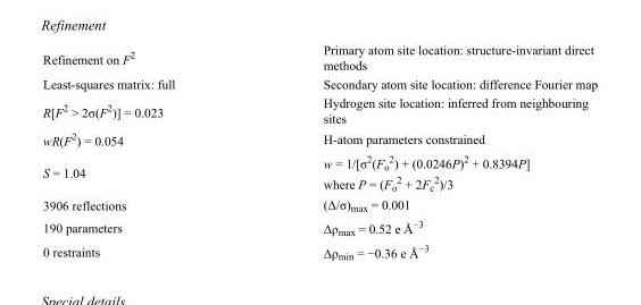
<table><tbody><tr><td>Refinement on F<sup>2</sup></td><td>Primary atom site location: structure-invariant direct methods</td></tr><tr><td>Least-squares matrix: full</td><td>Secondary atom site location: difference Fourier map</td></tr><tr><td>R[F<sup>2</sup> &gt; 2σ(F<sup>2</sup>)] = 0.023</td><td>Hydrogen site location: inferred from neighbouring sites</td></tr><tr><td>wR(F<sup>2</sup>) = 0.054</td><td>H-atom parameters constrained</td></tr><tr><td>S = 1.04</td><td>w = 1/[σ<sup>2</sup>(F<sub>o</sub> <sup>2</sup>) + (0.0246P)<sup>2</sup> + 0.8394P] where P = (F<sub>o</sub> <sup>2</sup> + 2F<sub>c</sub> <sup>2</sup>)/3</td></tr><tr><td>3906 reflections</td><td>(Δ/σ)<sub>max</sub> = 0.001</td></tr><tr><td>190 parameters</td><td>Δρ<sub>max</sub> = 0.52 e Å<sup>−3</sup></td></tr><tr><td>0 restraints</td><td>Δρ<sub>min</sub> = −0.36 e Å<sup>−3</sup></td></tr></tbody></table>